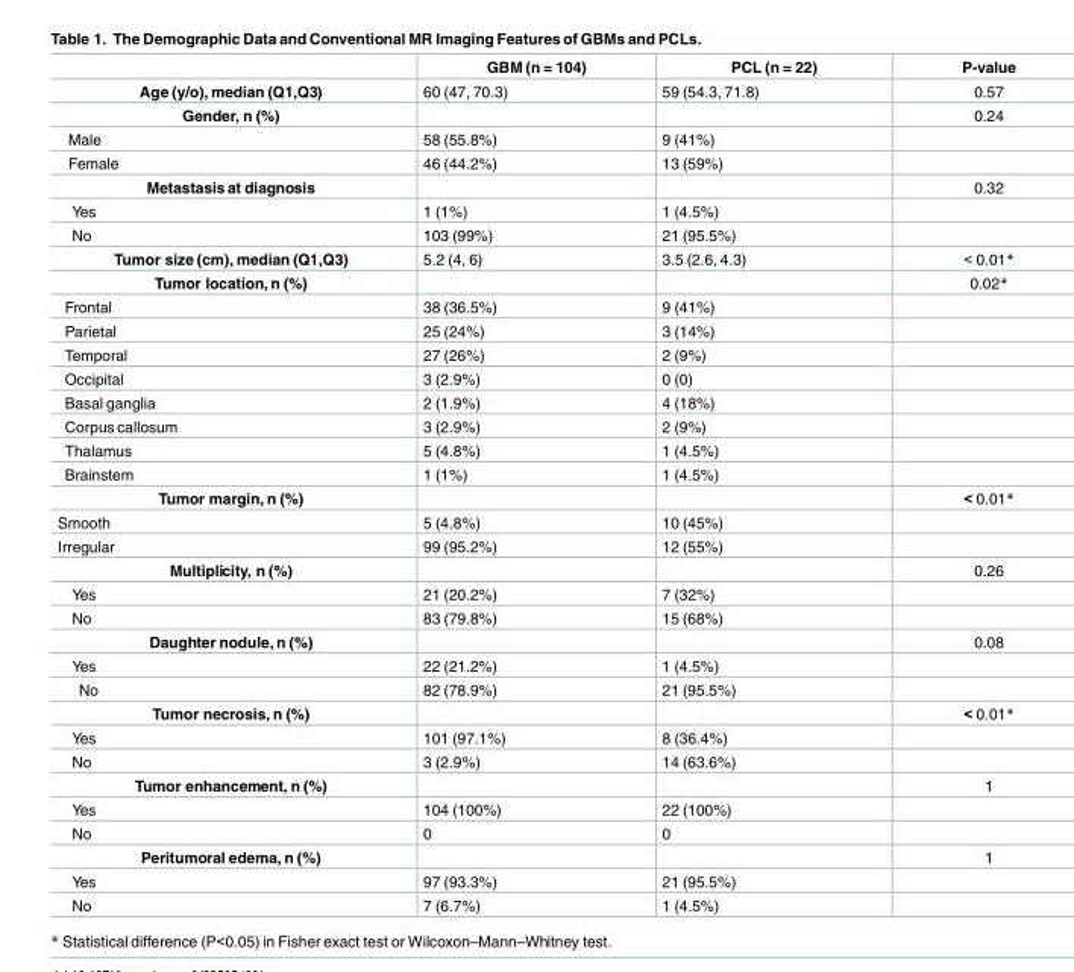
<table><thead><tr><td></td><td>GBM (n = 104)</td><td>PCL (n = 22)</td><td>P-value</td></tr></thead><tbody><tr><td>Age (y/o), median (Q1,Q3)</td><td>60 (47, 70.3)</td><td>59 (54.3, 71.8)</td><td>0.57</td></tr><tr><td>Gender, n (%)</td><td></td><td></td><td>0.24</td></tr><tr><td>Male</td><td>58 (55.8%)</td><td>9 (41%)</td><td></td></tr><tr><td>Female</td><td>46 (44.2%)</td><td>13 (59%)</td><td></td></tr><tr><td>Metastasis at diagnosis</td><td></td><td></td><td>0.32</td></tr><tr><td>Yes</td><td>1 (1%)</td><td>1 (4.5%)</td><td></td></tr><tr><td>No</td><td>103 (99%)</td><td>21 (95.5%)</td><td></td></tr><tr><td>Tumor size (cm), median (Q1,Q3)</td><td>5.2 (4, 6)</td><td>3.5 (2.6, 4.3)</td><td>&lt; 0.01*</td></tr><tr><td>Tumor location, n (%)</td><td></td><td></td><td>0.02*</td></tr><tr><td>Frontal</td><td>38 (36.5%)</td><td>9 (41%)</td><td></td></tr><tr><td>Parietal</td><td>25 (24%)</td><td>3 (14%)</td><td></td></tr><tr><td>Temporal</td><td>27 (26%)</td><td>2 (9%)</td><td></td></tr><tr><td>Occipital</td><td>3 (2.9%)</td><td>0 (0)</td><td></td></tr><tr><td>Basal ganglia</td><td>2 (1.9%)</td><td>4 (18%)</td><td></td></tr><tr><td>Corpus callosum</td><td>3 (2.9%)</td><td>2 (9%)</td><td></td></tr><tr><td>Thalamus</td><td>5 (4.8%)</td><td>1 (4.5%)</td><td></td></tr><tr><td>Brainstem</td><td>1 (1%)</td><td>1 (4.5%)</td><td></td></tr><tr><td>Tumor margin, n (%)</td><td></td><td></td><td>&lt; 0.01*</td></tr><tr><td>Smooth</td><td>5 (4.8%)</td><td>10 (45%)</td><td></td></tr><tr><td>Irregular</td><td>99 (95.2%)</td><td>12 (55%)</td><td></td></tr><tr><td>Multiplicity, n (%)</td><td></td><td></td><td>0.26</td></tr><tr><td>Yes</td><td>21 (20.2%)</td><td>7 (32%)</td><td></td></tr><tr><td>No</td><td>83 (79.8%)</td><td>15 (68%)</td><td></td></tr><tr><td>Daughter nodule, n (%)</td><td></td><td></td><td>0.08</td></tr><tr><td>Yes</td><td>22 (21.2%)</td><td>1 (4.5%)</td><td></td></tr><tr><td>No</td><td>82 (78.9%)</td><td>21 (95.5%)</td><td></td></tr><tr><td>Tumor necrosis, n (%)</td><td></td><td></td><td>&lt; 0.01*</td></tr><tr><td>Yes</td><td>101 (97.1%)</td><td>8 (36.4%)</td><td></td></tr><tr><td>No</td><td>3 (2.9%)</td><td>14 (63.6%)</td><td></td></tr><tr><td>Tumor enhancement, n (%)</td><td></td><td></td><td>1</td></tr><tr><td>Yes</td><td>104 (100%)</td><td>22 (100%)</td><td></td></tr><tr><td>No</td><td>0</td><td>0</td><td></td></tr><tr><td>Peritumoral edema, n (%)</td><td></td><td></td><td>1</td></tr><tr><td>Yes</td><td>97 (93.3%)</td><td>21 (95.5%)</td><td></td></tr><tr><td>No</td><td>7 (6.7%)</td><td>1 (4.5%)</td><td></td></tr></tbody></table>